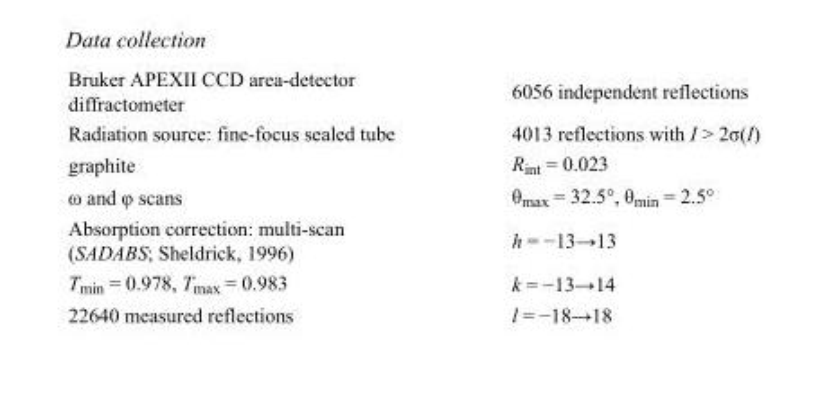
<table><tbody><tr><td>Bruker APEXII CCD area-detector diffractometer</td><td>6056 independent reflections</td></tr><tr><td>Radiation source: fine-focus sealed tube</td><td>4013 reflections with I &gt; 2σ(I)</td></tr><tr><td>graphite</td><td>R<sub>int</sub> = 0.023</td></tr><tr><td>ω and φ scans</td><td>θ<sub>max</sub> = 32.5°, θ<sub>min</sub> = 2.5°</td></tr><tr><td>Absorption correction: multi-scan (SADABS; Sheldrick, 1996)</td><td>h = −13→13</td></tr><tr><td>T<sub>min</sub> = 0.978, T<sub>max</sub> = 0.983</td><td>k = −13→14</td></tr><tr><td>22640 measured reflections</td><td>l = −18→18</td></tr></tbody></table>